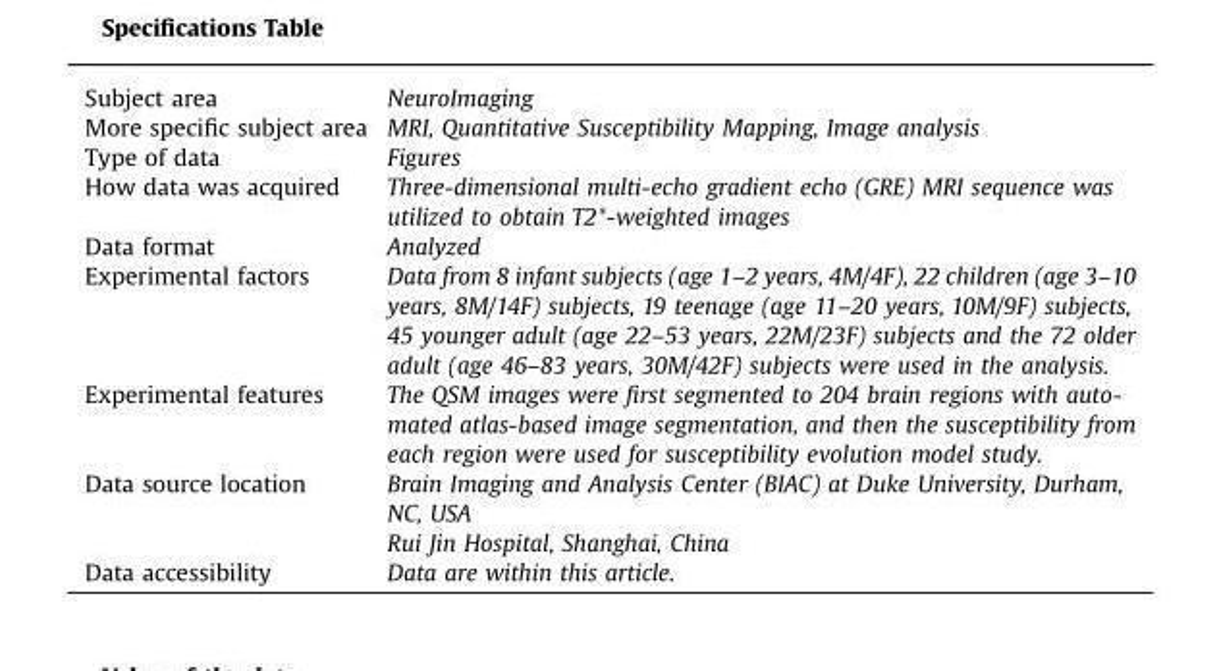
<table><tbody><tr><td>Subject area</td><td>NeuroImaging</td></tr><tr><td>More specific subject area</td><td>MRI, Quantitative Susceptibility Mapping, Image analysis</td></tr><tr><td>Type of data</td><td>Figures</td></tr><tr><td>How data was acquired</td><td>Three-dimensional multi-echo gradient echo (GRE) MRI sequence was utilized to obtain T2*-weighted images</td></tr><tr><td>Data format</td><td>Analyzed</td></tr><tr><td>Experimental factors</td><td>Data from 8 infant subjects (age 1–2 years, 4M/4F), 22 children (age 3–10 years, 8M/14F) subjects, 19 teenage (age 11–20 years, 10M/9F) subjects, 45 younger adult (age 22–53 years, 22M/23F) subjects and the 72 older adult (age 46–83 years, 30M/42F) subjects were used in the analysis.</td></tr><tr><td>Experimental features</td><td>The QSM images were first segmented to 204 brain regions with auto- mated atlas-based image segmentation, and then the susceptibility from each region were used for susceptibility evolution model study.</td></tr><tr><td rowspan="2">Data source location</td><td>Brain Imaging and Analysis Center (BIAC) at Duke University, Durham, NC, USA</td></tr><tr><td>Rui Jin Hospital, Shanghai, China</td></tr><tr><td>Data accessibility</td><td>Data are within this article.</td></tr></tbody></table>